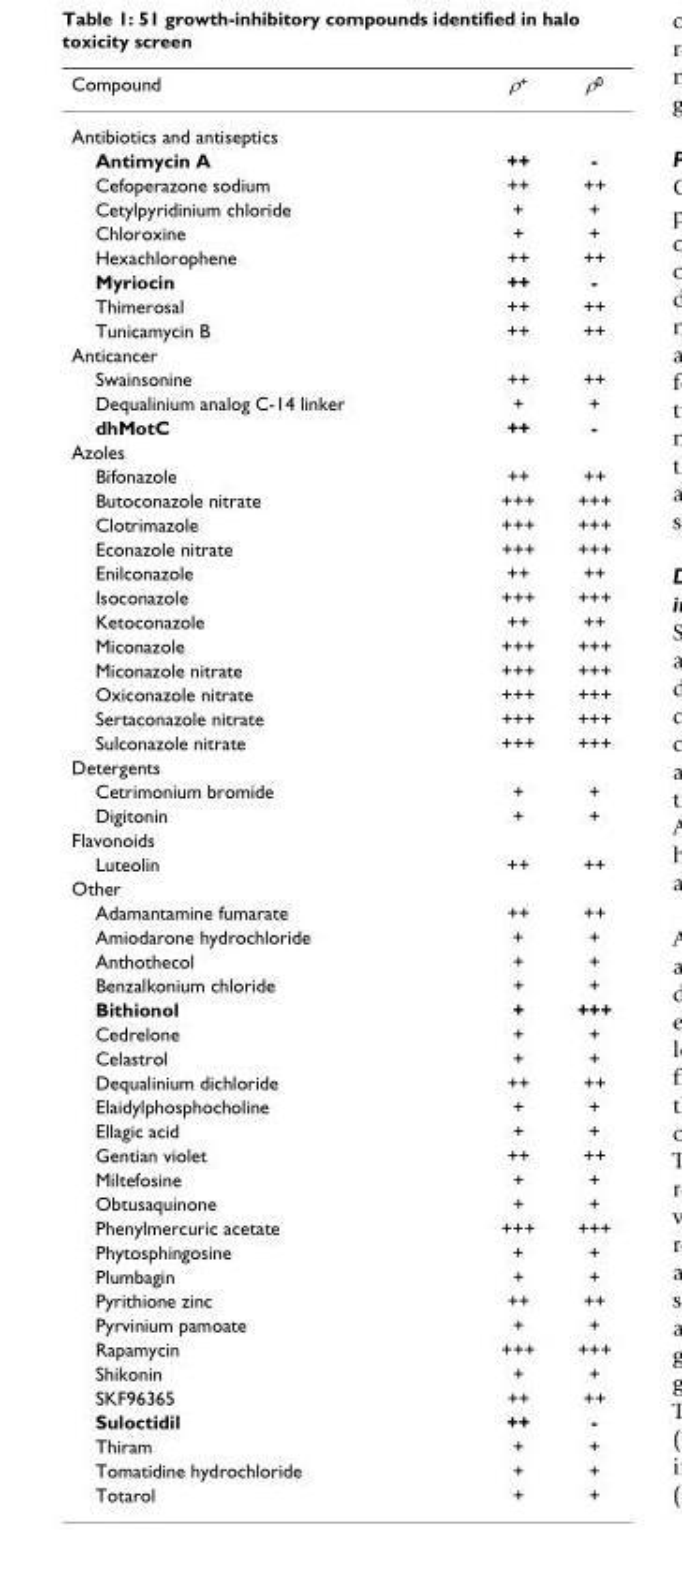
<table><thead><tr><td>Compound</td><td>ρ<sup>+</sup></td><td>ρ<sup>0</sup></td></tr></thead><tbody><tr><td colspan="3">Antibiotics and antiseptics</td></tr><tr><td>Antimycin A</td><td>++</td><td>-</td></tr><tr><td>Cefoperazone sodium</td><td>++</td><td>++</td></tr><tr><td>Cetylpyridinium chloride</td><td>+</td><td>+</td></tr><tr><td>Chloroxine</td><td>+</td><td>+</td></tr><tr><td>Hexachlorophene</td><td>++</td><td>++</td></tr><tr><td>Myriocin</td><td>++</td><td>-</td></tr><tr><td>Thimerosal</td><td>++</td><td>++</td></tr><tr><td>Tunicamycin B</td><td>++</td><td>++</td></tr><tr><td colspan="3">Anticancer</td></tr><tr><td>Swainsonine</td><td>++</td><td>++</td></tr><tr><td>Dequalinium analog C-14 linker</td><td>+</td><td>+</td></tr><tr><td>dhMotC</td><td>++</td><td>-</td></tr><tr><td colspan="3">Azoles</td></tr><tr><td>Bifonazole</td><td>++</td><td>++</td></tr><tr><td>Butoconazole nitrate</td><td>+++</td><td>+++</td></tr><tr><td>Clotrimazole</td><td>+++</td><td>+++</td></tr><tr><td>Econazole nitrate</td><td>+++</td><td>+++</td></tr><tr><td>Enilconazole</td><td>++</td><td>++</td></tr><tr><td>Isoconazole</td><td>+++</td><td>+++</td></tr><tr><td>Ketoconazole</td><td>++</td><td>++</td></tr><tr><td>Miconazole</td><td>+++</td><td>+++</td></tr><tr><td>Miconazole nitrate</td><td>+++</td><td>+++</td></tr><tr><td>Oxiconazole nitrate</td><td>+++</td><td>+++</td></tr><tr><td>Sertaconazole nitrate</td><td>+++</td><td>+++</td></tr><tr><td>Sulconazole nitrate</td><td>+++</td><td>+++</td></tr><tr><td colspan="3">Detergents</td></tr><tr><td>Cetrimonium bromide</td><td>+</td><td>+</td></tr><tr><td>Digitonin</td><td>+</td><td>+</td></tr><tr><td colspan="3">Flavonoids</td></tr><tr><td>Luteolin</td><td>++</td><td>++</td></tr><tr><td colspan="3">Other</td></tr><tr><td>Adamantamine fumarate</td><td>++</td><td>++</td></tr><tr><td>Amiodarone hydrochloride</td><td>+</td><td>+</td></tr><tr><td>Anthothecol</td><td>+</td><td>+</td></tr><tr><td>Benzalkonium chloride</td><td>+</td><td>+</td></tr><tr><td>Bithionol</td><td>+</td><td>+++</td></tr><tr><td>Cedrelone</td><td>+</td><td>+</td></tr><tr><td>Celastrol</td><td>+</td><td>+</td></tr><tr><td>Dequalinium dichloride</td><td>++</td><td>++</td></tr><tr><td>Elaidylphosphocholine</td><td>+</td><td>+</td></tr><tr><td>Ellagic acid</td><td>+</td><td>+</td></tr><tr><td>Gentian violet</td><td>++</td><td>++</td></tr><tr><td>Miltefosine</td><td>+</td><td>+</td></tr><tr><td>Obtusaquinone</td><td>+</td><td>+</td></tr><tr><td>Phenylmercuric acetate</td><td>+++</td><td>+++</td></tr><tr><td>Phytosphingosine</td><td>+</td><td>+</td></tr><tr><td>Plumbagin</td><td>+</td><td>+</td></tr><tr><td>Pyrithione zinc</td><td>++</td><td>++</td></tr><tr><td>Pyrvinium pamoate</td><td>+</td><td>+</td></tr><tr><td>Rapamycin</td><td>+++</td><td>+++</td></tr><tr><td>Shikonin</td><td>+</td><td>+</td></tr><tr><td>SKF96365</td><td>++</td><td>++</td></tr><tr><td>Suloctidil</td><td>++</td><td>-</td></tr><tr><td>Thiram</td><td>+</td><td>+</td></tr><tr><td>Tomatidine hydrochloride</td><td>+</td><td>+</td></tr><tr><td>Totarol</td><td>+</td><td>+</td></tr></tbody></table>